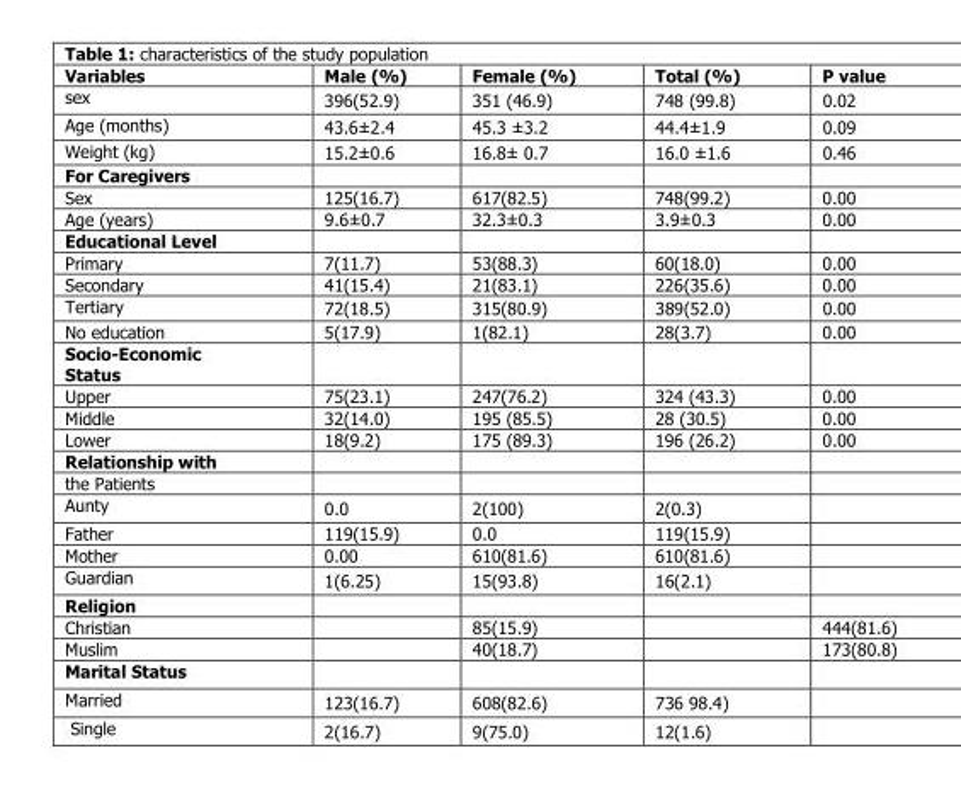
<table><thead><tr><td>Variables</td><td>Male (%)</td><td>Female (%)</td><td>Total (%)</td><td>P value</td></tr></thead><tbody><tr><td>sex</td><td>396(52.9)</td><td>351 (46.9)</td><td>748 (99.8)</td><td>0.02</td></tr><tr><td>Age (months)</td><td>43.6±2.4</td><td>45.3 ±3.2</td><td>44.4±1.9</td><td>0.09</td></tr><tr><td>Weight (kg)</td><td>15.2±0.6</td><td>16.8± 0.7</td><td>16.0 ±1.6</td><td>0.46</td></tr><tr><td colspan="5">For Caregivers</td></tr><tr><td>Sex</td><td>125(16.7)</td><td>617(82.5)</td><td>748(99.2)</td><td>0.00</td></tr><tr><td>Age (years)</td><td>9.6±0.7</td><td>32.3±0.3</td><td>3.9±0.3</td><td>0.00</td></tr><tr><td colspan="5">Educational Level</td></tr><tr><td>Primary</td><td>7(11.7)</td><td>53(88.3)</td><td>60(18.0)</td><td>0.00</td></tr><tr><td>Secondary</td><td>41(15.4)</td><td>21(83.1)</td><td>226(35.6)</td><td>0.00</td></tr><tr><td>Tertiary</td><td>72(18.5)</td><td>315(80.9)</td><td>389(52.0)</td><td>0.00</td></tr><tr><td>No education</td><td>5(17.9)</td><td>1(82.1)</td><td>28(3.7)</td><td>0.00</td></tr><tr><td colspan="5">Socio-Economic Status</td></tr><tr><td>Upper</td><td>75(23.1)</td><td>247(76.2)</td><td>324 (43.3)</td><td>0.00</td></tr><tr><td>Middle</td><td>32(14.0)</td><td>195 (85.5)</td><td>28 (30.5)</td><td>0.00</td></tr><tr><td>Lower</td><td>18(9.2)</td><td>175 (89.3)</td><td>196 (26.2)</td><td>0.00</td></tr><tr><td colspan="5">Relationship with</td></tr><tr><td colspan="5">the Patients</td></tr><tr><td>Aunty</td><td>0.0</td><td>2(100)</td><td>2(0.3)</td><td></td></tr><tr><td>Father</td><td>119(15.9)</td><td>0.0</td><td>119(15.9)</td><td></td></tr><tr><td>Mother</td><td>0.00</td><td>610(81.6)</td><td>610(81.6)</td><td></td></tr><tr><td>Guardian</td><td>1(6.25)</td><td>15(93.8)</td><td>16(2.1)</td><td></td></tr><tr><td colspan="5">Religion</td></tr><tr><td>Christian</td><td></td><td>85(15.9)</td><td></td><td>444(81.6)</td></tr><tr><td>Muslim</td><td></td><td>40(18.7)</td><td></td><td>173(80.8)</td></tr><tr><td colspan="5">Marital Status</td></tr><tr><td>Married</td><td>123(16.7)</td><td>608(82.6)</td><td>736 98.4)</td><td></td></tr><tr><td>Single</td><td>2(16.7)</td><td>9(75.0)</td><td>12(1.6)</td><td></td></tr></tbody></table>